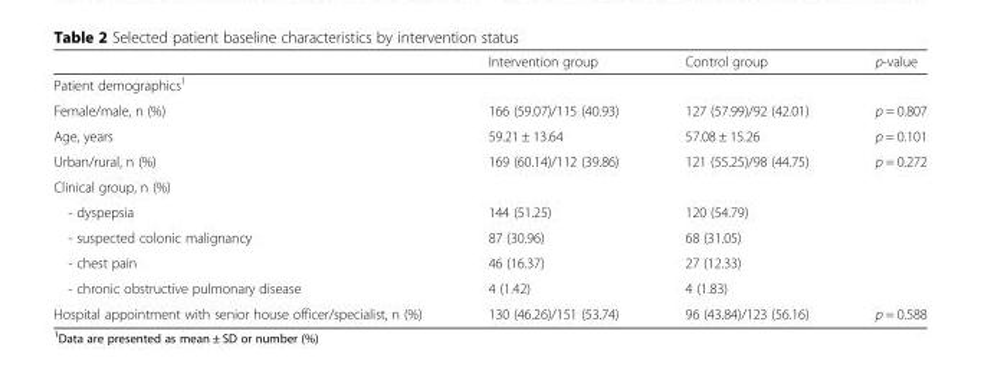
<table><thead><tr><td></td><td>Intervention group</td><td>Control group</td><td>p-value</td></tr></thead><tbody><tr><td colspan="4">Patient demographics<sup>1</sup></td></tr><tr><td>Female/male, n (%)</td><td>166 (59.07)/115 (40.93)</td><td>127 (57.99)/92 (42.01)</td><td>p = 0.807</td></tr><tr><td>Age, years</td><td>59.21 ± 13.64</td><td>57.08 ± 15.26</td><td>p = 0.101</td></tr><tr><td>Urban/rural, n (%)</td><td>169 (60.14)/112 (39.86)</td><td>121 (55.25)/98 (44.75)</td><td>p = 0.272</td></tr><tr><td colspan="4">Clinical group, n (%)</td></tr><tr><td>- dyspepsia</td><td>144 (51.25)</td><td>120 (54.79)</td><td></td></tr><tr><td>- suspected colonic malignancy</td><td>87 (30.96)</td><td>68 (31.05)</td><td></td></tr><tr><td>- chest pain</td><td>46 (16.37)</td><td>27 (12.33)</td><td></td></tr><tr><td>- chronic obstructive pulmonary disease</td><td>4 (1.42)</td><td>4 (1.83)</td><td></td></tr><tr><td>Hospital appointment with senior house officer/specialist, n (%)</td><td>130 (46.26)/151 (53.74)</td><td>96 (43.84)/123 (56.16)</td><td>p = 0.588</td></tr></tbody></table>